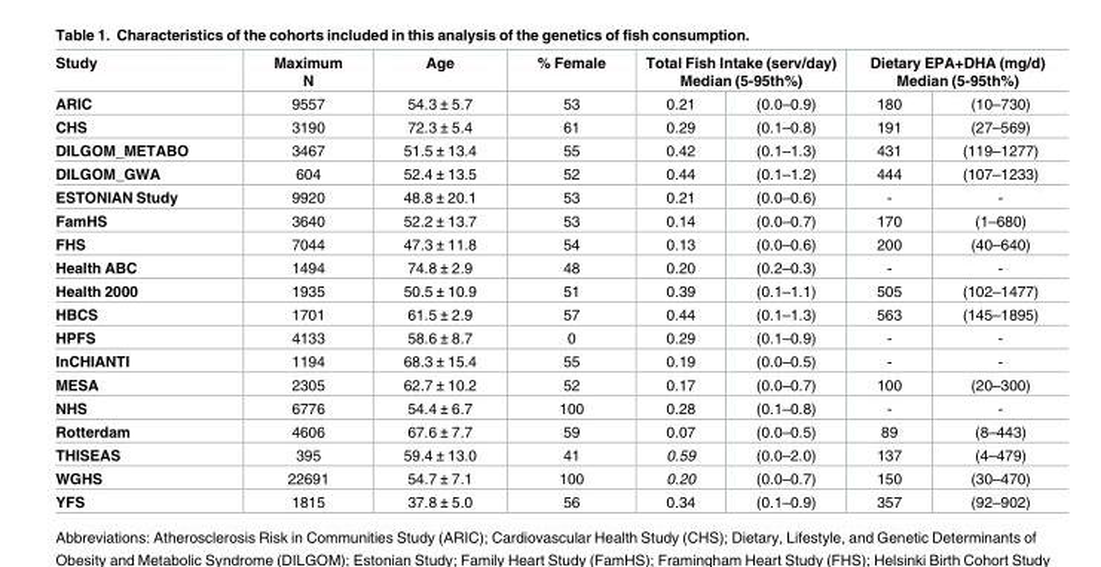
<table><thead><tr><td rowspan="2">Study ARIC</td><td rowspan="2">Maximum N 9557</td><td rowspan="2">Age 54.3 ± 5.7</td><td rowspan="2">% Female 53</td><td colspan="2">Total Fish Intake (serv/day) Median (5-95th%)</td><td colspan="2">Dietary EPA+DHA (mg/d) Median (5-95th%)</td></tr><tr><td>0.21</td><td>(0.0–0.9)</td><td>180</td><td>(10–730)</td></tr></thead><tbody><tr><td>CHS</td><td>3190</td><td>72.3 ± 5.4</td><td>61</td><td>0.29</td><td>(0.1–0.8)</td><td>191</td><td>(27–569)</td></tr><tr><td>DILGOM_METABO</td><td>3467</td><td>51.5 ± 13.4</td><td>55</td><td>0.42</td><td>(0.1–1.3)</td><td>431</td><td>(119–1277)</td></tr><tr><td>DILGOM_GWA</td><td>604</td><td>52.4 ± 13.5</td><td>52</td><td>0.44</td><td>(0.1–1.2)</td><td>444</td><td>(107–1233)</td></tr><tr><td>ESTONIAN Study</td><td>9920</td><td>48.8 ± 20.1</td><td>53</td><td>0.21</td><td>(0.0–0.6)</td><td>-</td><td>-</td></tr><tr><td>FamHS</td><td>3640</td><td>52.2 ± 13.7</td><td>53</td><td>0.14</td><td>(0.0–0.7)</td><td>170</td><td>(1–680)</td></tr><tr><td>FHS</td><td>7044</td><td>47.3 ± 11.8</td><td>54</td><td>0.13</td><td>(0.0–0.6)</td><td>200</td><td>(40–640)</td></tr><tr><td>Health ABC</td><td>1494</td><td>74.8 ± 2.9</td><td>48</td><td>0.20</td><td>(0.2–0.3)</td><td>-</td><td>-</td></tr><tr><td>Health 2000</td><td>1935</td><td>50.5 ± 10.9</td><td>51</td><td>0.39</td><td>(0.1–1.1)</td><td>505</td><td>(102–1477)</td></tr><tr><td>HBCS</td><td>1701</td><td>61.5 ± 2.9</td><td>57</td><td>0.44</td><td>(0.1–1.3)</td><td>563</td><td>(145–1895)</td></tr><tr><td>HPFS</td><td>4133</td><td>58.6 ± 8.7</td><td>0</td><td>0.29</td><td>(0.1–0.9)</td><td>-</td><td>-</td></tr><tr><td>InCHIANTI</td><td>1194</td><td>68.3 ± 15.4</td><td>55</td><td>0.19</td><td>(0.0–0.5)</td><td>-</td><td>-</td></tr><tr><td>MESA</td><td>2305</td><td>62.7 ± 10.2</td><td>52</td><td>0.17</td><td>(0.0–0.7)</td><td>100</td><td>(20–300)</td></tr><tr><td>NHS</td><td>6776</td><td>54.4 ± 6.7</td><td>100</td><td>0.28</td><td>(0.1–0.8)</td><td>-</td><td>-</td></tr><tr><td>Rotterdam</td><td>4606</td><td>67.6 ± 7.7</td><td>59</td><td>0.07</td><td>(0.0–0.5)</td><td>89</td><td>(8–443)</td></tr><tr><td>THISEAS</td><td>395</td><td>59.4 ± 13.0</td><td>41</td><td>0.59</td><td>(0.0–2.0)</td><td>137</td><td>(4–479)</td></tr><tr><td>WGHS</td><td>22691</td><td>54.7 ± 7.1</td><td>100</td><td>0.20</td><td>(0.0–0.7)</td><td>150</td><td>(30–470)</td></tr><tr><td>YFS</td><td>1815</td><td>37.8 ± 5.0</td><td>56</td><td>0.34</td><td>(0.1–0.9)</td><td>357</td><td>(92–902)</td></tr></tbody></table>